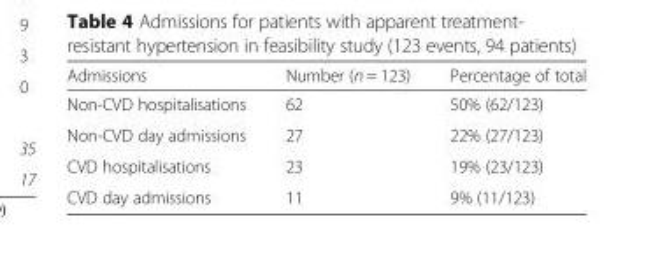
<table><thead><tr><td>Admissions</td><td>Number (n = 123)</td><td>Percentage of total</td></tr></thead><tbody><tr><td>Non-CVD hospitalisations</td><td>62</td><td>50% (62/123)</td></tr><tr><td>Non-CVD day admissions</td><td>27</td><td>22% (27/123)</td></tr><tr><td>CVD hospitalisations</td><td>23</td><td>19% (23/123)</td></tr><tr><td>CVD day admissions</td><td>11</td><td>9% (11/123)</td></tr></tbody></table>